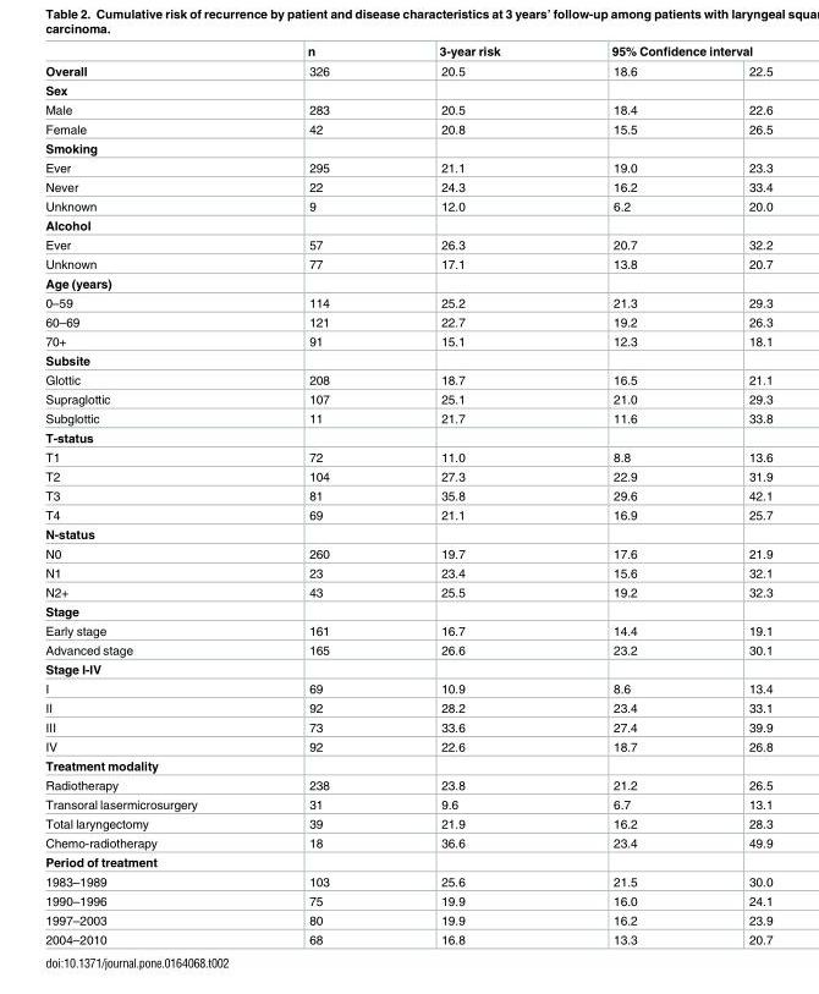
<table><thead><tr><td rowspan="2">Overall</td><td rowspan="2">n 326</td><td rowspan="2">3-year risk 20.5</td><td colspan="2">95% Confidence interval</td></tr><tr><td>18.6</td><td>22.5</td></tr></thead><tbody><tr><td colspan="5">Sex</td></tr><tr><td>Male</td><td>283</td><td>20.5</td><td>18.4</td><td>22.6</td></tr><tr><td>Female</td><td>42</td><td>20.8</td><td>15.5</td><td>26.5</td></tr><tr><td colspan="5">Smoking</td></tr><tr><td>Ever</td><td>295</td><td>21.1</td><td>19.0</td><td>23.3</td></tr><tr><td>Never</td><td>22</td><td>24.3</td><td>16.2</td><td>33.4</td></tr><tr><td>Unknown</td><td>9</td><td>12.0</td><td>6.2</td><td>20.0</td></tr><tr><td colspan="5">Alcohol</td></tr><tr><td>Ever</td><td>57</td><td>26.3</td><td>20.7</td><td>32.2</td></tr><tr><td>Unknown</td><td>77</td><td>17.1</td><td>13.8</td><td>20.7</td></tr><tr><td colspan="5">Age (years)</td></tr><tr><td>0–59</td><td>114</td><td>25.2</td><td>21.3</td><td>29.3</td></tr><tr><td>60–69</td><td>121</td><td>22.7</td><td>19.2</td><td>26.3</td></tr><tr><td>70+</td><td>91</td><td>15.1</td><td>12.3</td><td>18.1</td></tr><tr><td colspan="5">Subsite</td></tr><tr><td>Glottic</td><td>208</td><td>18.7</td><td>16.5</td><td>21.1</td></tr><tr><td>Supraglottic</td><td>107</td><td>25.1</td><td>21.0</td><td>29.3</td></tr><tr><td>Subglottic</td><td>11</td><td>21.7</td><td>11.6</td><td>33.8</td></tr><tr><td colspan="5">T-status</td></tr><tr><td>T1</td><td>72</td><td>11.0</td><td>8.8</td><td>13.6</td></tr><tr><td>T2</td><td>104</td><td>27.3</td><td>22.9</td><td>31.9</td></tr><tr><td>T3</td><td>81</td><td>35.8</td><td>29.6</td><td>42.1</td></tr><tr><td>T4</td><td>69</td><td>21.1</td><td>16.9</td><td>25.7</td></tr><tr><td colspan="5">N-status</td></tr><tr><td>N0</td><td>260</td><td>19.7</td><td>17.6</td><td>21.9</td></tr><tr><td>N1</td><td>23</td><td>23.4</td><td>15.6</td><td>32.1</td></tr><tr><td>N2+</td><td>43</td><td>25.5</td><td>19.2</td><td>32.3</td></tr><tr><td colspan="5">Stage</td></tr><tr><td>Early stage</td><td>161</td><td>16.7</td><td>14.4</td><td>19.1</td></tr><tr><td>Advanced stage</td><td>165</td><td>26.6</td><td>23.2</td><td>30.1</td></tr><tr><td colspan="5">Stage I-IV</td></tr><tr><td>I</td><td>69</td><td>10.9</td><td>8.6</td><td>13.4</td></tr><tr><td>II</td><td>92</td><td>28.2</td><td>23.4</td><td>33.1</td></tr><tr><td>III</td><td>73</td><td>33.6</td><td>27.4</td><td>39.9</td></tr><tr><td>IV</td><td>92</td><td>22.6</td><td>18.7</td><td>26.8</td></tr><tr><td colspan="5">Treatment modality</td></tr><tr><td>Radiotherapy</td><td>238</td><td>23.8</td><td>21.2</td><td>26.5</td></tr><tr><td>Transoral lasermicrosurgery</td><td>31</td><td>9.6</td><td>6.7</td><td>13.1</td></tr><tr><td>Total laryngectomy</td><td>39</td><td>21.9</td><td>16.2</td><td>28.3</td></tr><tr><td>Chemo-radiotherapy</td><td>18</td><td>36.6</td><td>23.4</td><td>49.9</td></tr><tr><td colspan="5">Period of treatment</td></tr><tr><td>1983–1989</td><td>103</td><td>25.6</td><td>21.5</td><td>30.0</td></tr><tr><td>1990–1996</td><td>75</td><td>19.9</td><td>16.0</td><td>24.1</td></tr><tr><td>1997–2003</td><td>80</td><td>19.9</td><td>16.2</td><td>23.9</td></tr><tr><td>2004–2010</td><td>68</td><td>16.8</td><td>13.3</td><td>20.7</td></tr></tbody></table>